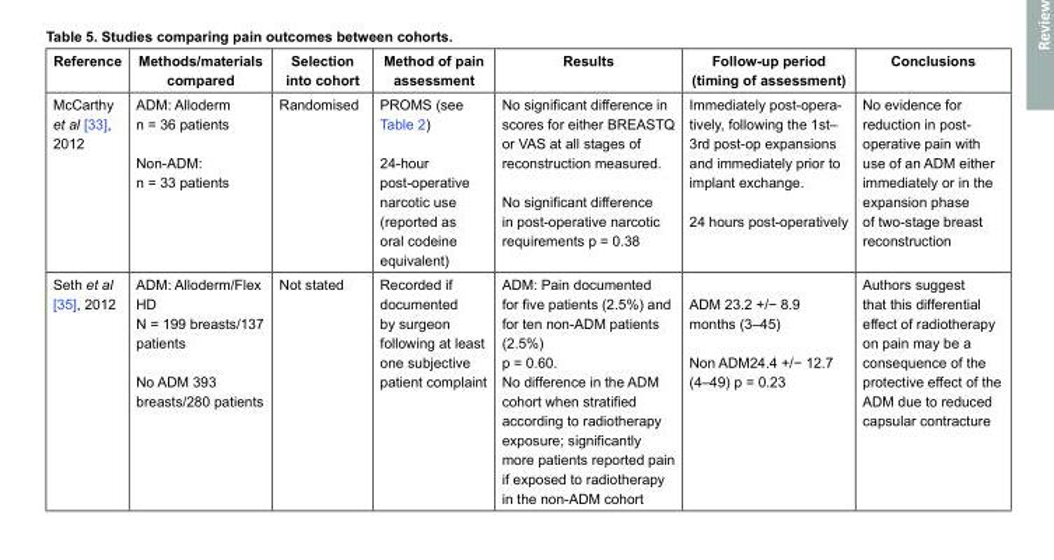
<table><thead><tr><td>Reference</td><td>Methods/materials compared</td><td>Selection into cohort</td><td>Method of pain assessment</td><td>Results</td><td>Follow-up period (timing of assessment)</td><td>Conclusions</td></tr></thead><tbody><tr><td>McCarthy et al [33], 2012</td><td>ADM: Alloderm n = 36 patients Non-ADM: n = 33 patients</td><td>Randomised</td><td>PROMS (see Table 2) 24-hour post-operative narcotic use (reported as oral codeine equivalent)</td><td>No significant difference in scores for either BREASTQ or VAS at all stages of reconstruction measured. No significant difference in post-operative narcotic requirements p = 0.38</td><td>Immediately post-opera- tively, following the 1st– 3rd post-op expansions and immediately prior to implant exchange. 24 hours post-operatively</td><td>No evidence for reduction in post- operative pain with use of an ADM either immediately or in the expansion phase of two-stage breast reconstruction</td></tr><tr><td>Seth et al [35], 2012</td><td>ADM: Alloderm/Flex HD N = 199 breasts/137 patients No ADM 393 breasts/280 patients</td><td>Not stated</td><td>Recorded if documented by surgeon following at least one subjective patient complaint</td><td>ADM: Pain documented for five patients (2.5%) and for ten non-ADM patients (2.5%) p = 0.60. No difference in the ADM cohort when stratified according to radiotherapy exposure; significantly more patients reported pain if exposed to radiotherapy in the non-ADM cohort</td><td>ADM 23.2 +/− 8.9 months (3–45) Non ADM24.4 +/− 12.7 (4–49) p = 0.23</td><td>Authors suggest that this differential effect of radiotherapy on pain may be a consequence of the protective effect of the ADM due to reduced capsular contracture</td></tr></tbody></table>